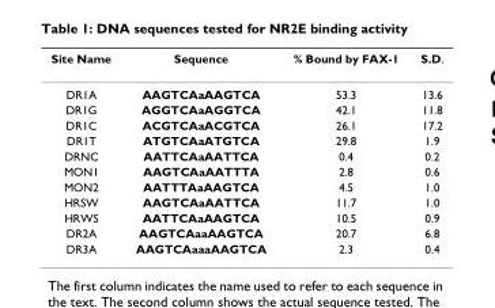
<table><thead><tr><td>Site Name</td><td>Sequence</td><td>% Bound by FAX-1</td><td>S.D.</td></tr></thead><tbody><tr><td>DR1A</td><td>AAGTCAaAAGTCA</td><td>53.3</td><td>13.6</td></tr><tr><td>DR1G</td><td>AGGTCAaAGGTCA</td><td>42.1</td><td>11.8</td></tr><tr><td>DR1C</td><td>ACGTCAaACGTCA</td><td>26.1</td><td>17.2</td></tr><tr><td>DR1T</td><td>ATGTCAaATGTCA</td><td>29.8</td><td>1.9</td></tr><tr><td>DRNC</td><td>AATTCAaAATTCA</td><td>0.4</td><td>0.2</td></tr><tr><td>MON1</td><td>AAGTCAaAATTTA</td><td>2.8</td><td>0.6</td></tr><tr><td>MON2</td><td>AATTTAaAAGTCA</td><td>4.5</td><td>1.0</td></tr><tr><td>HRSW</td><td>AAGTCAaAATTCA</td><td>11.7</td><td>1.0</td></tr><tr><td>HRWS</td><td>AATTCAaAAGTCA</td><td>10.5</td><td>0.9</td></tr><tr><td>DR2A</td><td>AAGTCAaaAAGTCA</td><td>20.7</td><td>6.8</td></tr><tr><td>DR3A</td><td>AAGTCAaaaAAGTCA</td><td>2.3</td><td>0.4</td></tr></tbody></table>